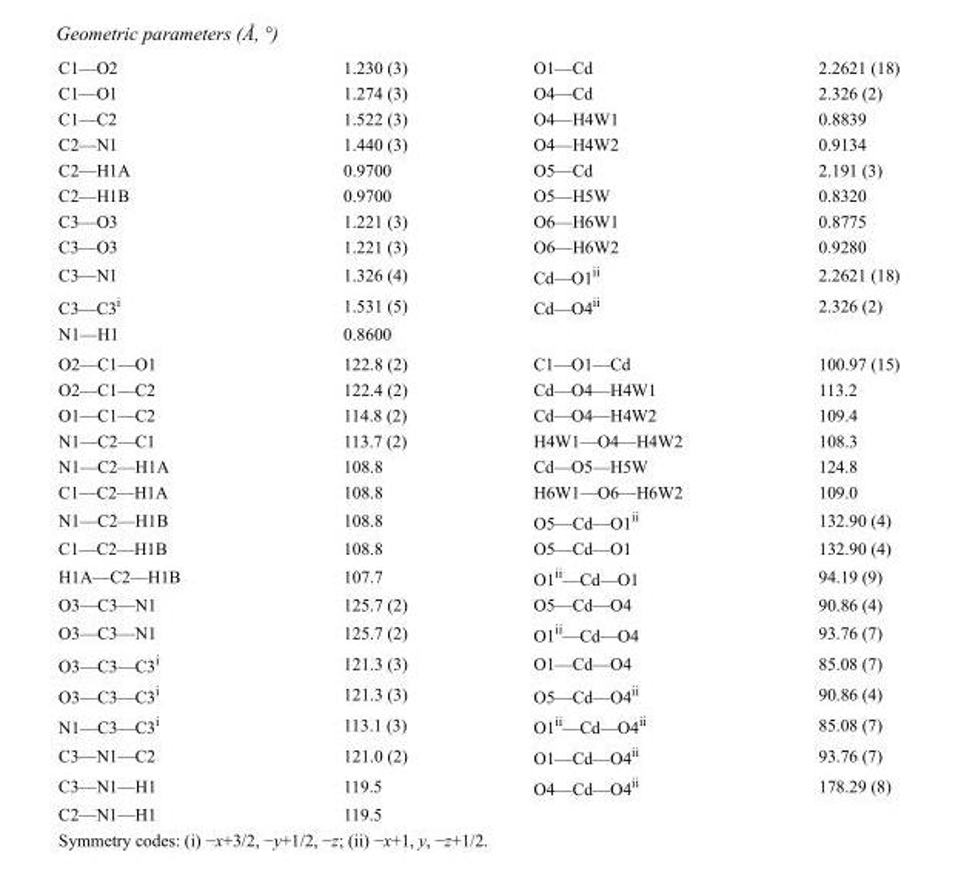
<table><tbody><tr><td>C1—O2</td><td>1.230 (3)</td><td>O1—Cd</td><td>2.2621 (18)</td></tr><tr><td>C1—O1</td><td>1.274 (3)</td><td>O4—Cd</td><td>2.326 (2)</td></tr><tr><td>C1—C2</td><td>1.522 (3)</td><td>O4—H4W1</td><td>0.8839</td></tr><tr><td>C2—N1</td><td>1.440 (3)</td><td>O4—H4W2</td><td>0.9134</td></tr><tr><td>C2—H1A</td><td>0.9700</td><td>O5—Cd</td><td>2.191 (3)</td></tr><tr><td>C2—H1B</td><td>0.9700</td><td>O5—H5W</td><td>0.8320</td></tr><tr><td>C3—O3</td><td>1.221 (3)</td><td>O6—H6W1</td><td>0.8775</td></tr><tr><td>C3—O3</td><td>1.221 (3)</td><td>O6—H6W2</td><td>0.9280</td></tr><tr><td>C3—N1</td><td>1.326 (4)</td><td>Cd—O1<sup>ii</sup></td><td>2.2621 (18)</td></tr><tr><td>C3—C3<sup>i</sup></td><td>1.531 (5)</td><td>Cd—O4<sup>ii</sup></td><td>2.326 (2)</td></tr><tr><td>N1—H1</td><td>0.8600</td><td></td><td></td></tr><tr><td>O2—C1—O1</td><td>122.8 (2)</td><td>C1—O1—Cd</td><td>100.97 (15)</td></tr><tr><td>O2—C1—C2</td><td>122.4 (2)</td><td>Cd—O4—H4W1</td><td>113.2</td></tr><tr><td>O1—C1—C2</td><td>114.8 (2)</td><td>Cd—O4—H4W2</td><td>109.4</td></tr><tr><td>N1—C2—C1</td><td>113.7 (2)</td><td>H4W1—O4—H4W2</td><td>108.3</td></tr><tr><td>N1—C2—H1A</td><td>108.8</td><td>Cd—O5—H5W</td><td>124.8</td></tr><tr><td>C1—C2—H1A</td><td>108.8</td><td>H6W1—O6—H6W2</td><td>109.0</td></tr><tr><td>N1—C2—H1B</td><td>108.8</td><td>O5—Cd—O1<sup>ii</sup></td><td>132.90 (4)</td></tr><tr><td>C1—C2—H1B</td><td>108.8</td><td>O5—Cd—O1</td><td>132.90 (4)</td></tr><tr><td>H1A—C2—H1B</td><td>107.7</td><td>O1<sup>ii</sup>—Cd—O1</td><td>94.19 (9)</td></tr><tr><td>O3—C3—N1</td><td>125.7 (2)</td><td>O5—Cd—O4</td><td>90.86 (4)</td></tr><tr><td>O3—C3—N1</td><td>125.7 (2)</td><td>O1<sup>ii</sup>—Cd—O4</td><td>93.76 (7)</td></tr><tr><td>O3—C3—C3<sup>i</sup></td><td>121.3 (3)</td><td>O1—Cd—O4</td><td>85.08 (7)</td></tr><tr><td>O3—C3—C3<sup>i</sup></td><td>121.3 (3)</td><td>O5—Cd—O4<sup>ii</sup></td><td>90.86 (4)</td></tr><tr><td>N1—C3—C3<sup>i</sup></td><td>113.1 (3)</td><td>O1<sup>ii</sup>—Cd—O4<sup>ii</sup></td><td>85.08 (7)</td></tr><tr><td>C3—N1—C2</td><td>121.0 (2)</td><td>O1—Cd—O4<sup>ii</sup></td><td>93.76 (7)</td></tr><tr><td>C3—N1—H1</td><td>119.5</td><td>O4—Cd—O4<sup>ii</sup></td><td>178.29 (8)</td></tr><tr><td>C2—N1—H1</td><td>119.5</td><td></td><td></td></tr></tbody></table>